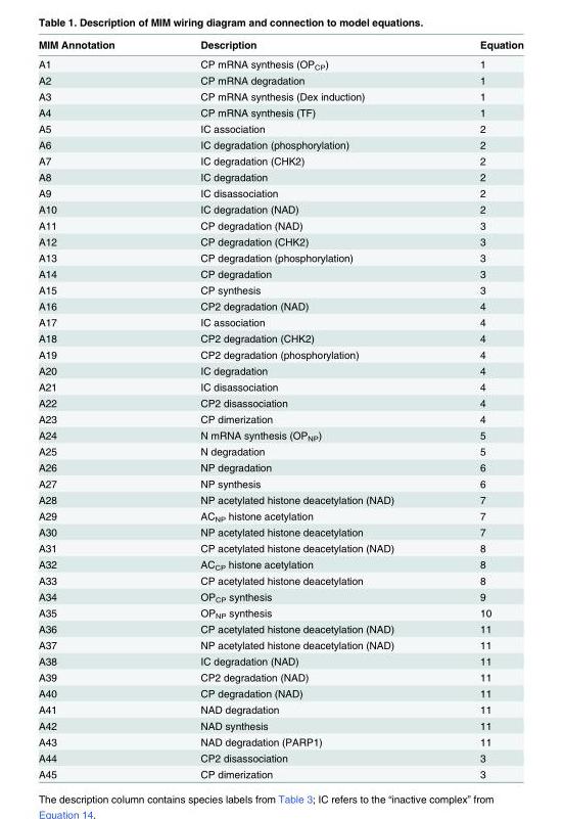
<table><thead><tr><td>MIM Annotation</td><td>Description</td><td>Equation</td></tr></thead><tbody><tr><td>A1</td><td>CP mRNA synthesis (OP<sub>CP</sub>)</td><td>1</td></tr><tr><td>A2</td><td>CP mRNA degradation</td><td>1</td></tr><tr><td>A3</td><td>CP mRNA synthesis (Dex induction)</td><td>1</td></tr><tr><td>A4</td><td>CP mRNA synthesis (TF)</td><td>1</td></tr><tr><td>A5</td><td>IC association</td><td>2</td></tr><tr><td>A6</td><td>IC degradation (phosphorylation)</td><td>2</td></tr><tr><td>A7</td><td>IC degradation (CHK2)</td><td>2</td></tr><tr><td>A8</td><td>IC degradation</td><td>2</td></tr><tr><td>A9</td><td>IC disassociation</td><td>2</td></tr><tr><td>A10</td><td>IC degradation (NAD)</td><td>2</td></tr><tr><td>A11</td><td>CP degradation (NAD)</td><td>3</td></tr><tr><td>A12</td><td>CP degradation (CHK2)</td><td>3</td></tr><tr><td>A13</td><td>CP degradation (phosphorylation)</td><td>3</td></tr><tr><td>A14</td><td>CP degradation</td><td>3</td></tr><tr><td>A15</td><td>CP synthesis</td><td>3</td></tr><tr><td>A16</td><td>CP2 degradation (NAD)</td><td>4</td></tr><tr><td>A17</td><td>IC association</td><td>4</td></tr><tr><td>A18</td><td>CP2 degradation (CHK2)</td><td>4</td></tr><tr><td>A19</td><td>CP2 degradation (phosphorylation)</td><td>4</td></tr><tr><td>A20</td><td>IC degradation</td><td>4</td></tr><tr><td>A21</td><td>IC disassociation</td><td>4</td></tr><tr><td>A22</td><td>CP2 disassociation</td><td>4</td></tr><tr><td>A23</td><td>CP dimerization</td><td>4</td></tr><tr><td>A24</td><td>N mRNA synthesis (OP<sub>NP</sub>)</td><td>5</td></tr><tr><td>A25</td><td>N degradation</td><td>5</td></tr><tr><td>A26</td><td>NP degradation</td><td>6</td></tr><tr><td>A27</td><td>NP synthesis</td><td>6</td></tr><tr><td>A28</td><td>NP acetylated histone deacetylation (NAD)</td><td>7</td></tr><tr><td>A29</td><td>AC<sub>NP</sub> histone acetylation</td><td>7</td></tr><tr><td>A30</td><td>NP acetylated histone deacetylation</td><td>7</td></tr><tr><td>A31</td><td>CP acetylated histone deacetylation (NAD)</td><td>8</td></tr><tr><td>A32</td><td>AC<sub>CP</sub> histone acetylation</td><td>8</td></tr><tr><td>A33</td><td>CP acetylated histone deacetylation</td><td>8</td></tr><tr><td>A34</td><td>OP<sub>CP</sub> synthesis</td><td>9</td></tr><tr><td>A35</td><td>OP<sub>NP</sub> synthesis</td><td>10</td></tr><tr><td>A36</td><td>CP acetylated histone deacetylation (NAD)</td><td>11</td></tr><tr><td>A37</td><td>NP acetylated histone deacetylation (NAD)</td><td>11</td></tr><tr><td>A38</td><td>IC degradation (NAD)</td><td>11</td></tr><tr><td>A39</td><td>CP2 degradation (NAD)</td><td>11</td></tr><tr><td>A40</td><td>CP degradation (NAD)</td><td>11</td></tr><tr><td>A41</td><td>NAD degradation</td><td>11</td></tr><tr><td>A42</td><td>NAD synthesis</td><td>11</td></tr><tr><td>A43</td><td>NAD degradation (PARP1)</td><td>11</td></tr><tr><td>A44</td><td>CP2 disassociation</td><td>3</td></tr><tr><td>A45</td><td>CP dimerization</td><td>3</td></tr></tbody></table>